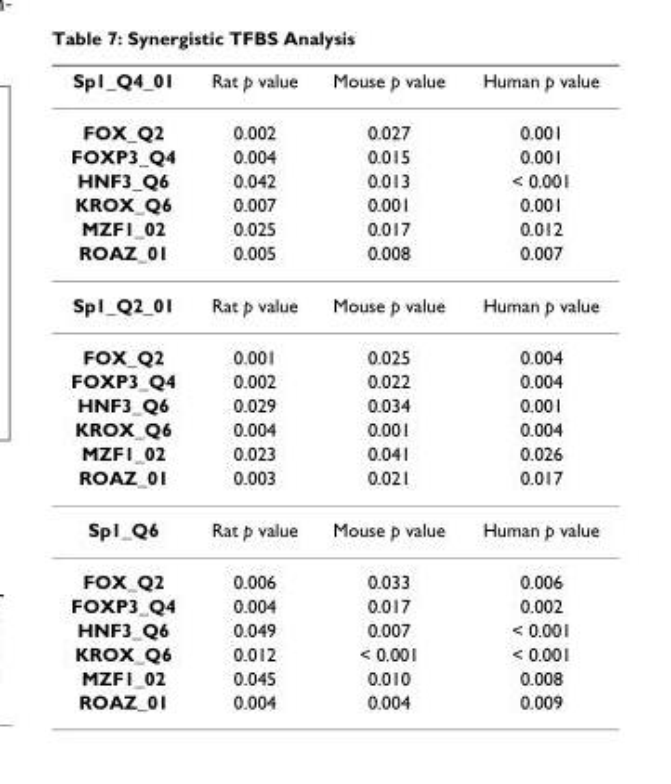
<table><thead><tr><td>Sp1_Q4_01</td><td>Rat p value</td><td>Mouse p value</td><td>Human p value</td></tr></thead><tbody><tr><td>FOX_Q2</td><td>0.002</td><td>0.027</td><td>0.001</td></tr><tr><td>FOXP3_Q4</td><td>0.004</td><td>0.015</td><td>0.001</td></tr><tr><td>HNF3_Q6</td><td>0.042</td><td>0.013</td><td>&lt; 0.001</td></tr><tr><td>KROX_Q6</td><td>0.007</td><td>0.001</td><td>0.001</td></tr><tr><td>MZF1_02</td><td>0.025</td><td>0.017</td><td>0.012</td></tr><tr><td>ROAZ_01</td><td>0.005</td><td>0.008</td><td>0.007</td></tr><tr><td>Sp1_Q2_01</td><td>Rat p value</td><td>Mouse p value</td><td>Human p value</td></tr><tr><td>FOX_Q2</td><td>0.001</td><td>0.025</td><td>0.004</td></tr><tr><td>FOXP3_Q4</td><td>0.002</td><td>0.022</td><td>0.004</td></tr><tr><td>HNF3_Q6</td><td>0.029</td><td>0.034</td><td>0.001</td></tr><tr><td>KROX_Q6</td><td>0.004</td><td>0.001</td><td>0.004</td></tr><tr><td>MZF1_02</td><td>0.023</td><td>0.041</td><td>0.026</td></tr><tr><td>ROAZ_01</td><td>0.003</td><td>0.021</td><td>0.017</td></tr><tr><td>Sp1_Q6</td><td>Rat p value</td><td>Mouse p value</td><td>Human p value</td></tr><tr><td>FOX_Q2</td><td>0.006</td><td>0.033</td><td>0.006</td></tr><tr><td>FOXP3_Q4</td><td>0.004</td><td>0.017</td><td>0.002</td></tr><tr><td>HNF3_Q6</td><td>0.049</td><td>0.007</td><td>&lt; 0.001</td></tr><tr><td>KROX_Q6</td><td>0.012</td><td>&lt; 0.001</td><td>&lt; 0.001</td></tr><tr><td>MZF1_02</td><td>0.045</td><td>0.010</td><td>0.008</td></tr><tr><td>ROAZ_01</td><td>0.004</td><td>0.004</td><td>0.009</td></tr></tbody></table>